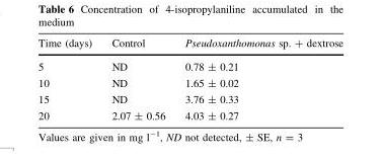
<table><thead><tr><td>Time (days)</td><td>Control</td><td>Pseudoxanthomonas sp. + dextrose</td></tr></thead><tbody><tr><td>5</td><td>ND</td><td>0.78 ± 0.21</td></tr><tr><td>10</td><td>ND</td><td>1.65 ± 0.02</td></tr><tr><td>15</td><td>ND</td><td>3.76 ± 0.33</td></tr><tr><td>20</td><td>2.07 ± 0.56</td><td>4.03 ± 0.27</td></tr></tbody></table>